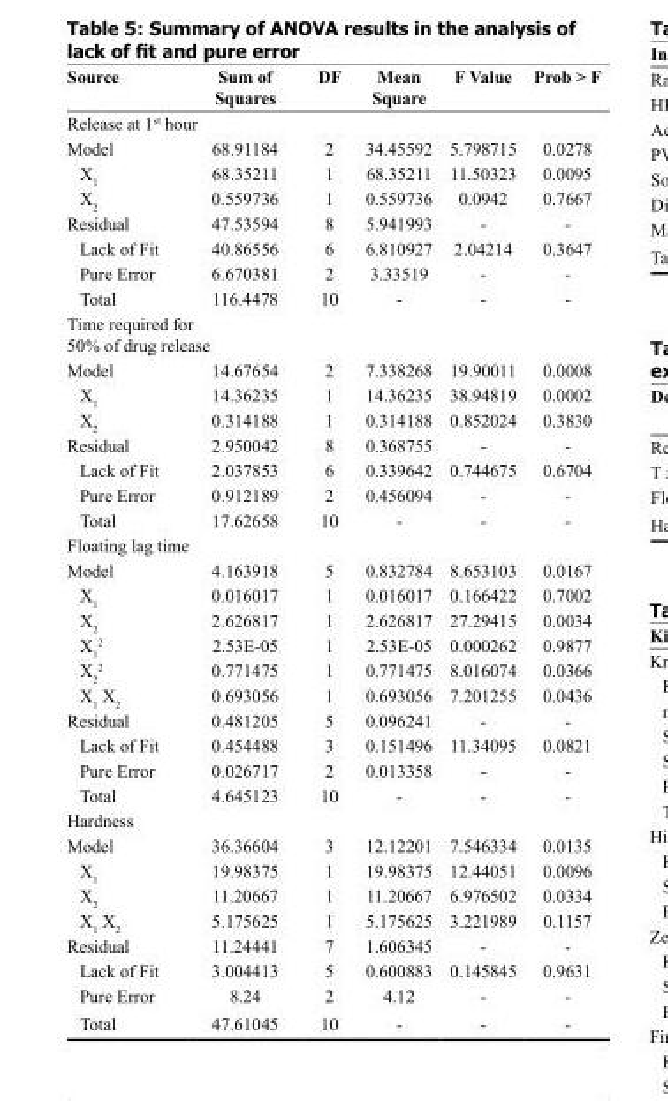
<table><thead><tr><td>Source</td><td>Sum of Squares</td><td>DF</td><td>Mean Square</td><td>F Value</td><td>Prob &gt; F</td></tr></thead><tbody><tr><td colspan="6">Release at 1<sup>st</sup> hour</td></tr><tr><td>Model</td><td>68.91184</td><td>2</td><td>34.45592</td><td>5.798715</td><td>0.0278</td></tr><tr><td>X<sub>1</sub></td><td>68.35211</td><td>1</td><td>68.35211</td><td>11.50323</td><td>0.0095</td></tr><tr><td>X<sub>2</sub></td><td>0.559736</td><td>1</td><td>0.559736</td><td>0.0942</td><td>0.7667</td></tr><tr><td>Residual</td><td>47.53594</td><td>8</td><td>5.941993</td><td>-</td><td>-</td></tr><tr><td>Lack of Fit</td><td>40.86556</td><td>6</td><td>6.810927</td><td>2.04214</td><td>0.3647</td></tr><tr><td>Pure Error</td><td>6.670381</td><td>2</td><td>3.33519</td><td>-</td><td>-</td></tr><tr><td>Total</td><td>116.4478</td><td>10</td><td>-</td><td>-</td><td>-</td></tr><tr><td colspan="6">Time required for 50% of drug release</td></tr><tr><td>Model</td><td>14.67654</td><td>2</td><td>7.338268</td><td>19.90011</td><td>0.0008</td></tr><tr><td>X<sub>1</sub></td><td>14.36235</td><td>1</td><td>14.36235</td><td>38.94819</td><td>0.0002</td></tr><tr><td>X<sub>2</sub></td><td>0.314188</td><td>1</td><td>0.314188</td><td>0.852024</td><td>0.3830</td></tr><tr><td>Residual</td><td>2.950042</td><td>8</td><td>0.368755</td><td>-</td><td>-</td></tr><tr><td>Lack of Fit</td><td>2.037853</td><td>6</td><td>0.339642</td><td>0.744675</td><td>0.6704</td></tr><tr><td>Pure Error</td><td>0.912189</td><td>2</td><td>0.456094</td><td>-</td><td>-</td></tr><tr><td>Total</td><td>17.62658</td><td>10</td><td>-</td><td>-</td><td>-</td></tr><tr><td colspan="6">Floating lag time</td></tr><tr><td>Model</td><td>4.163918</td><td>5</td><td>0.832784</td><td>8.653103</td><td>0.0167</td></tr><tr><td>X<sub>1</sub></td><td>0.016017</td><td>1</td><td>0.016017</td><td>0.166422</td><td>0.7002</td></tr><tr><td>X<sub>2</sub></td><td>2.626817</td><td>1</td><td>2.626817</td><td>27.29415</td><td>0.0034</td></tr><tr><td>X<sub>1</sub> <sup>2</sup></td><td>2.53E-05</td><td>1</td><td>2.53E-05</td><td>0.000262</td><td>0.9877</td></tr><tr><td>X<sub>2</sub> <sup>2</sup></td><td>0.771475</td><td>1</td><td>0.771475</td><td>8.016074</td><td>0.0366</td></tr><tr><td>X<sub>1</sub> X<sub>2</sub></td><td>0.693056</td><td>1</td><td>0.693056</td><td>7.201255</td><td>0.0436</td></tr><tr><td>Residual</td><td>0.481205</td><td>5</td><td>0.096241</td><td>-</td><td>-</td></tr><tr><td>Lack of Fit</td><td>0.454488</td><td>3</td><td>0.151496</td><td>11.34095</td><td>0.0821</td></tr><tr><td>Pure Error</td><td>0.026717</td><td>2</td><td>0.013358</td><td>-</td><td>-</td></tr><tr><td>Total</td><td>4.645123</td><td>10</td><td>-</td><td>-</td><td>-</td></tr><tr><td colspan="6">Hardness</td></tr><tr><td>Model</td><td>36.36604</td><td>3</td><td>12.12201</td><td>7.546334</td><td>0.0135</td></tr><tr><td>X<sub>1</sub></td><td>19.98375</td><td>1</td><td>19.98375</td><td>12.44051</td><td>0.0096</td></tr><tr><td>X<sub>2</sub></td><td>11.20667</td><td>1</td><td>11.20667</td><td>6.976502</td><td>0.0334</td></tr><tr><td>X<sub>1</sub> X<sub>2</sub></td><td>5.175625</td><td>1</td><td>5.175625</td><td>3.221989</td><td>0.1157</td></tr><tr><td>Residual</td><td>11.24441</td><td>7</td><td>1.606345</td><td>-</td><td>-</td></tr><tr><td>Lack of Fit</td><td>3.004413</td><td>5</td><td>0.600883</td><td>0.145845</td><td>0.9631</td></tr><tr><td>Pure Error</td><td>8.24</td><td>2</td><td>4.12</td><td>-</td><td>-</td></tr><tr><td>Total</td><td>47.61045</td><td>10</td><td>-</td><td>-</td><td>-</td></tr></tbody></table>